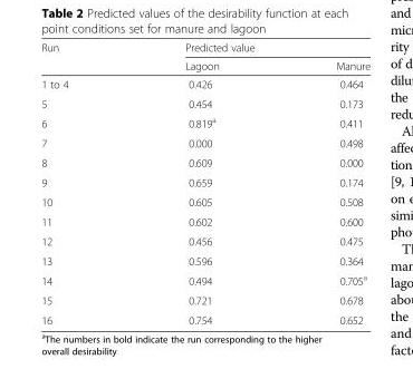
<table><thead><tr><td rowspan="2">Run</td><td colspan="2">Predicted value</td></tr><tr><td>Lagoon</td><td>Manure</td></tr></thead><tbody><tr><td>1 to 4</td><td>0.426</td><td>0.464</td></tr><tr><td>5</td><td>0.454</td><td>0.173</td></tr><tr><td>6</td><td>0.819<sup>a</sup></td><td>0.411</td></tr><tr><td>7</td><td>0.000</td><td>0.498</td></tr><tr><td>8</td><td>0.609</td><td>0.000</td></tr><tr><td>9</td><td>0.659</td><td>0.174</td></tr><tr><td>10</td><td>0.605</td><td>0.508</td></tr><tr><td>11</td><td>0.602</td><td>0.600</td></tr><tr><td>12</td><td>0.456</td><td>0.475</td></tr><tr><td>13</td><td>0.596</td><td>0.364</td></tr><tr><td>14</td><td>0.494</td><td>0.705<sup>a</sup></td></tr><tr><td>15</td><td>0.721</td><td>0.678</td></tr><tr><td>16</td><td>0.754</td><td>0.652</td></tr></tbody></table>